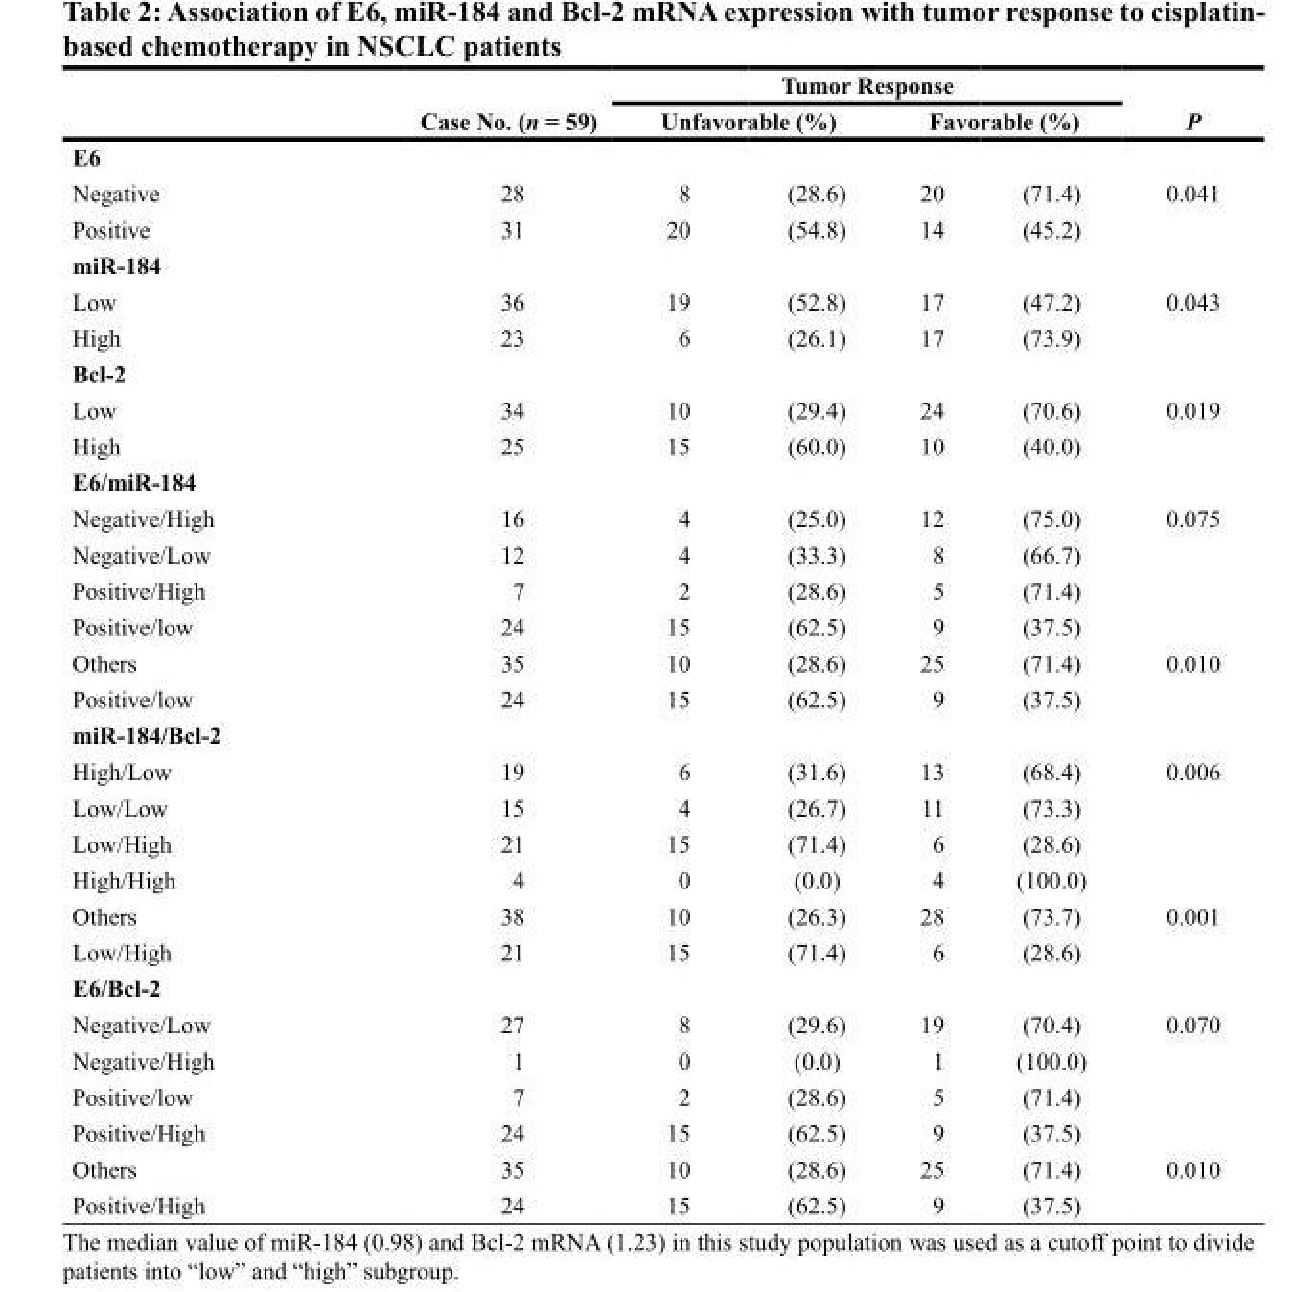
<table><thead><tr><td rowspan="2"></td><td rowspan="2">Case No. (n = 59)</td><td colspan="4">Tumor Response</td><td rowspan="2">P</td></tr><tr><td colspan="2">Unfavorable (%)</td><td colspan="2">Favorable (%)</td></tr><tr><td colspan="7">E6</td></tr><tr><td>Negative</td><td>28</td><td>8</td><td>(28.6)</td><td>20</td><td>(71.4)</td><td>0.041</td></tr></thead><tbody><tr><td>Positive</td><td>31</td><td>20</td><td>(54.8)</td><td>14</td><td>(45.2)</td><td></td></tr><tr><td colspan="7">miR-184</td></tr><tr><td>Low</td><td>36</td><td>19</td><td>(52.8)</td><td>17</td><td>(47.2)</td><td>0.043</td></tr><tr><td>High</td><td>23</td><td>6</td><td>(26.1)</td><td>17</td><td>(73.9)</td><td></td></tr><tr><td colspan="7">Bcl-2</td></tr><tr><td>Low</td><td>34</td><td>10</td><td>(29.4)</td><td>24</td><td>(70.6)</td><td>0.019</td></tr><tr><td>High</td><td>25</td><td>15</td><td>(60.0)</td><td>10</td><td>(40.0)</td><td></td></tr><tr><td colspan="7">E6/miR-184</td></tr><tr><td>Negative/High</td><td>16</td><td>4</td><td>(25.0)</td><td>12</td><td>(75.0)</td><td>0.075</td></tr><tr><td>Negative/Low</td><td>12</td><td>4</td><td>(33.3)</td><td>8</td><td>(66.7)</td><td></td></tr><tr><td>Positive/High</td><td>7</td><td>2</td><td>(28.6)</td><td>5</td><td>(71.4)</td><td></td></tr><tr><td>Positive/low</td><td>24</td><td>15</td><td>(62.5)</td><td>9</td><td>(37.5)</td><td></td></tr><tr><td>Others</td><td>35</td><td>10</td><td>(28.6)</td><td>25</td><td>(71.4)</td><td>0.010</td></tr><tr><td>Positive/low</td><td>24</td><td>15</td><td>(62.5)</td><td>9</td><td>(37.5)</td><td></td></tr><tr><td colspan="7">miR-184/Bcl-2</td></tr><tr><td>High/Low</td><td>19</td><td>6</td><td>(31.6)</td><td>13</td><td>(68.4)</td><td>0.006</td></tr><tr><td>Low/Low</td><td>15</td><td>4</td><td>(26.7)</td><td>11</td><td>(73.3)</td><td></td></tr><tr><td>Low/High</td><td>21</td><td>15</td><td>(71.4)</td><td>6</td><td>(28.6)</td><td></td></tr><tr><td>High/High</td><td>4</td><td>0</td><td>(0.0)</td><td>4</td><td>(100.0)</td><td></td></tr><tr><td>Others</td><td>38</td><td>10</td><td>(26.3)</td><td>28</td><td>(73.7)</td><td>0.001</td></tr><tr><td>Low/High</td><td>21</td><td>15</td><td>(71.4)</td><td>6</td><td>(28.6)</td><td></td></tr><tr><td colspan="7">E6/Bcl-2</td></tr><tr><td>Negative/Low</td><td>27</td><td>8</td><td>(29.6)</td><td>19</td><td>(70.4)</td><td>0.070</td></tr><tr><td>Negative/High</td><td>1</td><td>0</td><td>(0.0)</td><td>1</td><td>(100.0)</td><td></td></tr><tr><td>Positive/low</td><td>7</td><td>2</td><td>(28.6)</td><td>5</td><td>(71.4)</td><td></td></tr><tr><td>Positive/High</td><td>24</td><td>15</td><td>(62.5)</td><td>9</td><td>(37.5)</td><td></td></tr><tr><td>Others</td><td>35</td><td>10</td><td>(28.6)</td><td>25</td><td>(71.4)</td><td>0.010</td></tr><tr><td>Positive/High</td><td>24</td><td>15</td><td>(62.5)</td><td>9</td><td>(37.5)</td><td></td></tr></tbody></table>